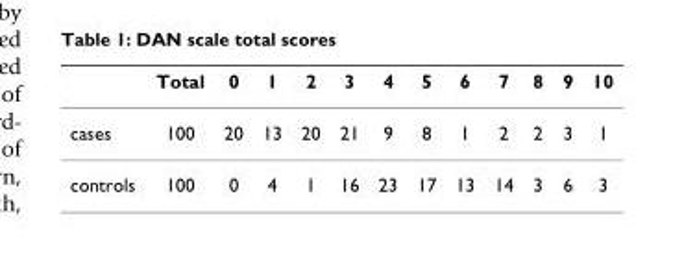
<table><thead><tr><td></td><td>Total</td><td>0</td><td>1</td><td>2</td><td>3</td><td>4</td><td>5</td><td>6</td><td>7</td><td>8</td><td>9</td><td>10</td></tr></thead><tbody><tr><td>cases</td><td>100</td><td>20</td><td>13</td><td>20</td><td>21</td><td>9</td><td>8</td><td>1</td><td>2</td><td>2</td><td>3</td><td>1</td></tr><tr><td>controls</td><td>100</td><td>0</td><td>4</td><td>1</td><td>16</td><td>23</td><td>17</td><td>13</td><td>14</td><td>3</td><td>6</td><td>3</td></tr></tbody></table>